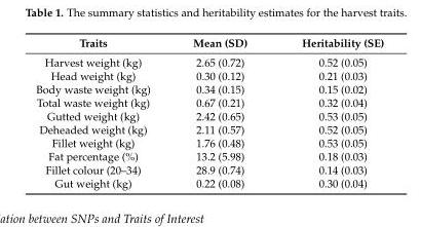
<table><thead><tr><td>Traits</td><td>Mean (SD)</td><td>Heritability (SE)</td></tr></thead><tbody><tr><td>Harvest weight (kg)</td><td>2.65 (0.72)</td><td>0.52 (0.05)</td></tr><tr><td>Head weight (kg)</td><td>0.30 (0.12)</td><td>0.21 (0.03)</td></tr><tr><td>Body waste weight (kg)</td><td>0.34 (0.15)</td><td>0.15 (0.02)</td></tr><tr><td>Total waste weight (kg)</td><td>0.67 (0.21)</td><td>0.32 (0.04)</td></tr><tr><td>Gutted weight (kg)</td><td>2.42 (0.65)</td><td>0.53 (0.05)</td></tr><tr><td>Deheaded weight (kg)</td><td>2.11 (0.57)</td><td>0.52 (0.05)</td></tr><tr><td>Fillet weight (kg)</td><td>1.76 (0.48)</td><td>0.53 (0.05)</td></tr><tr><td>Fat percentage (%)</td><td>13.2 (5.98)</td><td>0.18 (0.03)</td></tr><tr><td>Fillet colour (20–34)</td><td>28.9 (0.74)</td><td>0.14 (0.03)</td></tr><tr><td>Gut weight (kg)</td><td>0.22 (0.08)</td><td>0.30 (0.04)</td></tr></tbody></table>